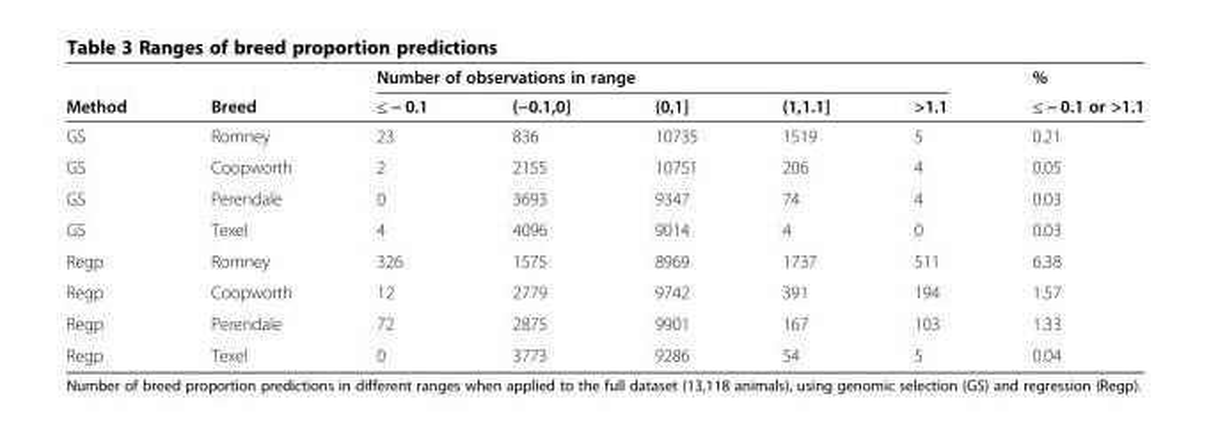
<table><thead><tr><td rowspan="2">Method</td><td rowspan="2">Breed</td><td colspan="5">Number of observations in range</td><td rowspan="2">% ≤ − 0.1 or &gt;1.1</td></tr><tr><td>≤ − 0.1</td><td>(−0.1,0]</td><td>(0,1]</td><td>(1,1.1]</td><td>&gt;1.1</td></tr></thead><tbody><tr><td>GS</td><td>Romney</td><td>23</td><td>836</td><td>10735</td><td>1519</td><td>5</td><td>0.21</td></tr><tr><td>GS</td><td>Coopworth</td><td>2</td><td>2155</td><td>10751</td><td>206</td><td>4</td><td>0.05</td></tr><tr><td>GS</td><td>Perendale</td><td>0</td><td>3693</td><td>9347</td><td>74</td><td>4</td><td>0.03</td></tr><tr><td>GS</td><td>Texel</td><td>4</td><td>4096</td><td>9014</td><td>4</td><td>0</td><td>0.03</td></tr><tr><td>Regp</td><td>Romney</td><td>326</td><td>1575</td><td>8969</td><td>1737</td><td>511</td><td>6.38</td></tr><tr><td>Regp</td><td>Coopworth</td><td>12</td><td>2779</td><td>9742</td><td>391</td><td>194</td><td>1.57</td></tr><tr><td>Regp</td><td>Perendale</td><td>72</td><td>2875</td><td>9901</td><td>167</td><td>103</td><td>1.33</td></tr><tr><td>Regp</td><td>Texel</td><td>0</td><td>3773</td><td>9286</td><td>54</td><td>5</td><td>0.04</td></tr></tbody></table>